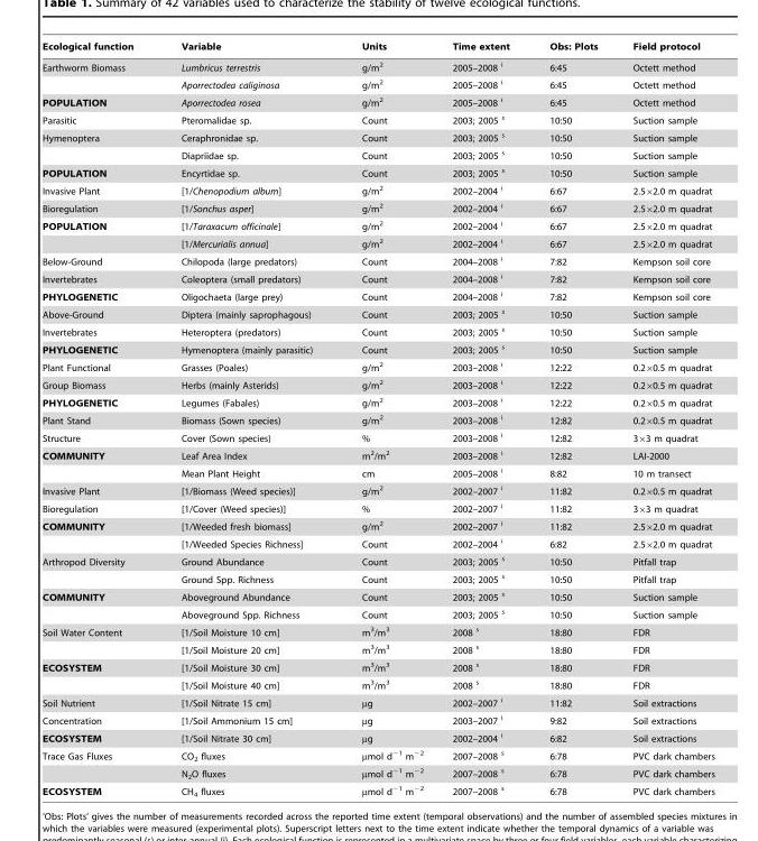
<table><thead><tr><td>Ecological function</td><td>Variable</td><td>Units</td><td>Time extent</td><td>Obs: Plots</td><td>Field protocol</td></tr></thead><tbody><tr><td rowspan="2">Earthworm Biomass</td><td>Lumbricus terrestris</td><td>g/m<sup>2</sup></td><td>2005–2008 <sup>i</sup></td><td>6:45</td><td>Octett method</td></tr><tr><td>Aporrectodea caliginosa</td><td>g/m<sup>2</sup></td><td>2005–2008 <sup>i</sup></td><td>6:45</td><td>Octett method</td></tr><tr><td>POPULATION</td><td>Aporrectodea rosea</td><td>g/m<sup>2</sup></td><td>2005–2008 <sup>i</sup></td><td>6:45</td><td>Octett method</td></tr><tr><td>Parasitic</td><td>Pteromalidae sp.</td><td>Count</td><td>2003; 2005 <sup>s</sup></td><td>10:50</td><td>Suction sample</td></tr><tr><td rowspan="2">Hymenoptera</td><td>Ceraphronidae sp.</td><td>Count</td><td>2003; 2005 <sup>s</sup></td><td>10:50</td><td>Suction sample</td></tr><tr><td>Diapriidae sp.</td><td>Count</td><td>2003; 2005 <sup>s</sup></td><td>10:50</td><td>Suction sample</td></tr><tr><td>POPULATION</td><td>Encyrtidae sp.</td><td>Count</td><td>2003; 2005 <sup>s</sup></td><td>10:50</td><td>Suction sample</td></tr><tr><td>Invasive Plant</td><td>[1/Chenopodium album]</td><td>g/m<sup>2</sup></td><td>2002–2004 <sup>i</sup></td><td>6:67</td><td>2.5×2.0 m quadrat</td></tr><tr><td>Bioregulation</td><td>[1/Sonchus asper]</td><td>g/m<sup>2</sup></td><td>2002–2004 <sup>i</sup></td><td>6:67</td><td>2.5×2.0 m quadrat</td></tr><tr><td rowspan="2">POPULATION</td><td>[1/Taraxacum officinale]</td><td>g/m<sup>2</sup></td><td>2002–2004 <sup>i</sup></td><td>6:67</td><td>2.5×2.0 m quadrat</td></tr><tr><td>[1/Mercurialis annua]</td><td>g/m<sup>2</sup></td><td>2002–2004 <sup>i</sup></td><td>6:67</td><td>2.5×2.0 m quadrat</td></tr><tr><td>Below-Ground</td><td>Chilopoda (large predators)</td><td>Count</td><td>2004–2008 <sup>i</sup></td><td>7:82</td><td>Kempson soil core</td></tr><tr><td>Invertebrates</td><td>Coleoptera (small predators)</td><td>Count</td><td>2004–2008 <sup>i</sup></td><td>7:82</td><td>Kempson soil core</td></tr><tr><td>PHYLOGENETIC</td><td>Oligochaeta (large prey)</td><td>Count</td><td>2004–2008 <sup>i</sup></td><td>7:82</td><td>Kempson soil core</td></tr><tr><td>Above-Ground</td><td>Diptera (mainly saprophagous)</td><td>Count</td><td>2003; 2005 <sup>s</sup></td><td>10:50</td><td>Suction sample</td></tr><tr><td>Invertebrates</td><td>Heteroptera (predators)</td><td>Count</td><td>2003; 2005 <sup>s</sup></td><td>10:50</td><td>Suction sample</td></tr><tr><td>PHYLOGENETIC</td><td>Hymenoptera (mainly parasitic)</td><td>Count</td><td>2003; 2005 <sup>s</sup></td><td>10:50</td><td>Suction sample</td></tr><tr><td>Plant Functional</td><td>Grasses (Poales)</td><td>g/m<sup>2</sup></td><td>2003–2008 <sup>i</sup></td><td>12:22</td><td>0.2×0.5 m quadrat</td></tr><tr><td>Group Biomass</td><td>Herbs (mainly Asterids)</td><td>g/m<sup>2</sup></td><td>2003–2008 <sup>i</sup></td><td>12:22</td><td>0.2×0.5 m quadrat</td></tr><tr><td>PHYLOGENETIC</td><td>Legumes (Fabales)</td><td>g/m<sup>2</sup></td><td>2003–2008 <sup>i</sup></td><td>12:22</td><td>0.2×0.5 m quadrat</td></tr><tr><td>Plant Stand</td><td>Biomass (Sown species)</td><td>g/m<sup>2</sup></td><td>2003–2008 <sup>i</sup></td><td>12:82</td><td>0.2×0.5 m quadrat</td></tr><tr><td>Structure</td><td>Cover (Sown species)</td><td>%</td><td>2003–2008 <sup>i</sup></td><td>12:82</td><td>3×3 m quadrat</td></tr><tr><td rowspan="2">COMMUNITY</td><td>Leaf Area Index</td><td>m<sup>2</sup>/m<sup>2</sup></td><td>2003–2008 <sup>i</sup></td><td>12:82</td><td>LAI-2000</td></tr><tr><td>Mean Plant Height</td><td>cm</td><td>2005–2008 <sup>i</sup></td><td>8:82</td><td>10 m transect</td></tr><tr><td>Invasive Plant</td><td>[1/Biomass (Weed species)]</td><td>g/m<sup>2</sup></td><td>2002–2007 <sup>i</sup></td><td>11:82</td><td>0.2×0.5 m quadrat</td></tr><tr><td>Bioregulation</td><td>[1/Cover (Weed species)]</td><td>%</td><td>2002–2007 <sup>i</sup></td><td>11:82</td><td>3×3 m quadrat</td></tr><tr><td rowspan="2">COMMUNITY</td><td>[1/Weeded fresh biomass]</td><td>g/m<sup>2</sup></td><td>2002–2007 <sup>i</sup></td><td>11:82</td><td>2.5×2.0 m quadrat</td></tr><tr><td>[1/Weeded Species Richness]</td><td>Count</td><td>2002–2004 <sup>i</sup></td><td>6:82</td><td>2.5×2.0 m quadrat</td></tr><tr><td rowspan="2">Arthropod Diversity</td><td>Ground Abundance</td><td>Count</td><td>2003; 2005 <sup>s</sup></td><td>10:50</td><td>Pitfall trap</td></tr><tr><td>Ground Spp. Richness</td><td>Count</td><td>2003; 2005 <sup>s</sup></td><td>10:50</td><td>Pitfall trap</td></tr><tr><td rowspan="2">COMMUNITY</td><td>Aboveground Abundance</td><td>Count</td><td>2003; 2005 <sup>s</sup></td><td>10:50</td><td>Suction sample</td></tr><tr><td>Aboveground Spp. Richness</td><td>Count</td><td>2003; 2005 <sup>s</sup></td><td>10:50</td><td>Suction sample</td></tr><tr><td rowspan="2">Soil Water Content</td><td>[1/Soil Moisture 10 cm]</td><td>m<sup>3</sup>/m<sup>3</sup></td><td>2008 <sup>s</sup></td><td>18:80</td><td>FDR</td></tr><tr><td>[1/Soil Moisture 20 cm]</td><td>m<sup>3</sup>/m<sup>3</sup></td><td>2008 <sup>s</sup></td><td>18:80</td><td>FDR</td></tr><tr><td rowspan="2">ECOSYSTEM</td><td>[1/Soil Moisture 30 cm]</td><td>m<sup>3</sup>/m<sup>3</sup></td><td>2008 <sup>s</sup></td><td>18:80</td><td>FDR</td></tr><tr><td>[1/Soil Moisture 40 cm]</td><td>m<sup>3</sup>/m<sup>3</sup></td><td>2008 <sup>s</sup></td><td>18:80</td><td>FDR</td></tr><tr><td>Soil Nutrient</td><td>[1/Soil Nitrate 15 cm]</td><td>µg</td><td>2002–2007 <sup>i</sup></td><td>11:82</td><td>Soil extractions</td></tr><tr><td>Concentration</td><td>[1/Soil Ammonium 15 cm]</td><td>µg</td><td>2003–2007 <sup>i</sup></td><td>9:82</td><td>Soil extractions</td></tr><tr><td>ECOSYSTEM</td><td>[1/Soil Nitrate 30 cm]</td><td>µg</td><td>2002–2004 <sup>i</sup></td><td>6:82</td><td>Soil extractions</td></tr><tr><td rowspan="2">Trace Gas Fluxes</td><td>CO<sub>2</sub> fluxes</td><td>µmol d<sup>−1</sup> m<sup>−2</sup></td><td>2007–2008 <sup>s</sup></td><td>6:78</td><td>PVC dark chambers</td></tr><tr><td>N<sub>2</sub>O fluxes</td><td>µmol d<sup>−1</sup> m<sup>−2</sup></td><td>2007–2008 <sup>s</sup></td><td>6:78</td><td>PVC dark chambers</td></tr><tr><td>ECOSYSTEM</td><td>CH<sub>4</sub> fluxes</td><td>µmol d<sup>−1</sup> m<sup>−2</sup></td><td>2007–2008 <sup>s</sup></td><td>6:78</td><td>PVC dark chambers</td></tr></tbody></table>